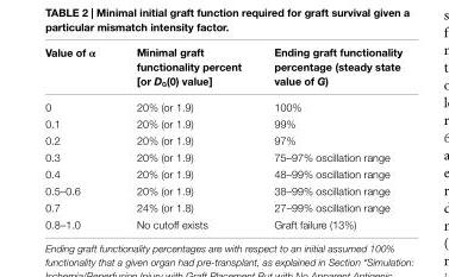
<table><thead><tr><td>Value of α</td><td>Minimal graft functionality percent [or D<sub>g</sub>(0) value]</td><td>ending graft functionality percentage (steady state value of G)</td></tr></thead><tbody><tr><td>0</td><td>20% (or 1.9)</td><td>100%</td></tr><tr><td>0.1</td><td>20% (or 1.9)</td><td>99%</td></tr><tr><td>0.2</td><td>20% (or 1.9)</td><td>97%</td></tr><tr><td>0.3</td><td>20% (or 1.9)</td><td>75–97% oscillation range</td></tr><tr><td>0.4</td><td>20% (or 1.9)</td><td>48–99% oscillation range</td></tr><tr><td>0.5–0.6</td><td>20% (or 1.9)</td><td>38–99% oscillation range</td></tr><tr><td>0.7</td><td>24% (or 1.8)</td><td>27–99% oscillation range</td></tr><tr><td>0.8–1.0</td><td>No cutoff exists</td><td>Graft failure (13%)</td></tr></tbody></table>